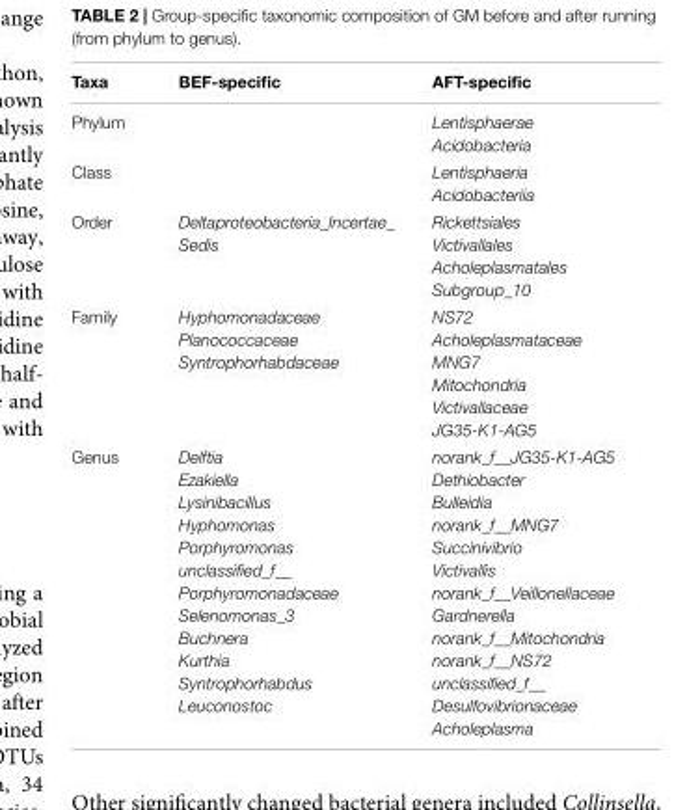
<table><thead><tr><td>Taxa</td><td>BEF-specific</td><td>AFT-specific</td></tr></thead><tbody><tr><td>Phylum</td><td></td><td>Lentisphaerae Acidobacteria</td></tr><tr><td>Class</td><td></td><td>Lentisphaeria Acidobacteriia</td></tr><tr><td>Order</td><td>Deltaproteobacteria_Incertae_ Sedis</td><td>Rickettsiales Victivallales Acholeplasmatales Subgroup_10</td></tr><tr><td>Family</td><td>Hyphomonadaceae Planococcaceae Syntrophorhabdaceae</td><td>NS72 Acholeplasmataceae MNG7 Mitochondria Victivallaceae JG35-K1-AG5</td></tr><tr><td>Genus</td><td>Delftia Ezakiella Lysinibacillus Hyphomonas Porphyromonas unclassified_f__ Porphyromonadaceae Selenomonas_3 Buchnera Kurthia Syntrophorhabdus Leuconostoc</td><td>norank_f__JG35-K1-AG5 Dethiobacter Bulleidia norank_f__MNG7 Succinivibrio Victivallis norank_f__Veillonellaceae Gardnerella norank_f__Mitochondria norank_f__NS72 unclassified_f__ Desulfovibrionaceae Acholeplasma</td></tr></tbody></table>